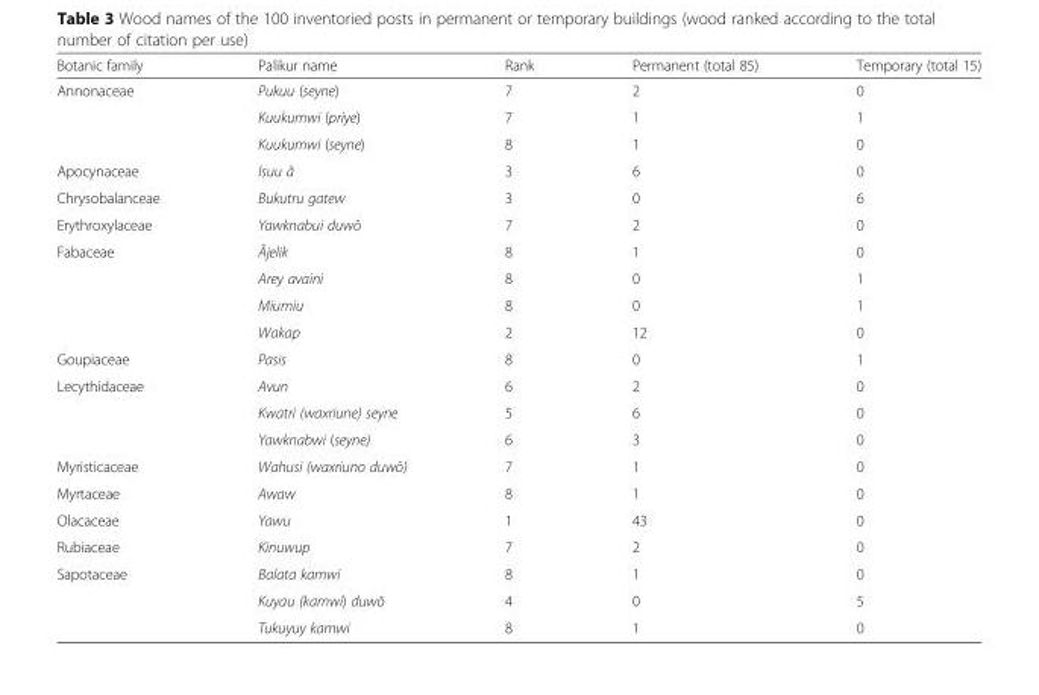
<table><thead><tr><td>Botanic family</td><td>Palikur name</td><td>Rank</td><td>Permanent (total 85)</td><td>Temporary (total 15)</td></tr></thead><tbody><tr><td rowspan="3">Annonaceae</td><td>Pukuu (seyne)</td><td>7</td><td>2</td><td>0</td></tr><tr><td>Kuukumwi (priye)</td><td>7</td><td>1</td><td>1</td></tr><tr><td>Kuukumwi (seyne)</td><td>8</td><td>1</td><td>0</td></tr><tr><td>Apocynaceae</td><td>Isuu ã</td><td>3</td><td>6</td><td>0</td></tr><tr><td>Chrysobalanceae</td><td>Bukutru gatew</td><td>3</td><td>0</td><td>6</td></tr><tr><td>Erythroxylaceae</td><td>Yawknabui duwõ</td><td>7</td><td>2</td><td>0</td></tr><tr><td rowspan="4">Fabaceae</td><td>Ãjelik</td><td>8</td><td>1</td><td>0</td></tr><tr><td>Arey avaini</td><td>8</td><td>0</td><td>1</td></tr><tr><td>Miumiu</td><td>8</td><td>0</td><td>1</td></tr><tr><td>Wakap</td><td>2</td><td>12</td><td>0</td></tr><tr><td>Goupiaceae</td><td>Pasis</td><td>8</td><td>0</td><td>1</td></tr><tr><td rowspan="3">Lecythidaceae</td><td>Avun</td><td>6</td><td>2</td><td>0</td></tr><tr><td>Kwatri (waxriune) seyne</td><td>5</td><td>6</td><td>0</td></tr><tr><td>Yawknabwi (seyne)</td><td>6</td><td>3</td><td>0</td></tr><tr><td>Myristicaceae</td><td>Wahusi (waxriuno duwõ)</td><td>7</td><td>1</td><td>0</td></tr><tr><td>Myrtaceae</td><td>Awaw</td><td>8</td><td>1</td><td>0</td></tr><tr><td>Olacaceae</td><td>Yawu</td><td>1</td><td>43</td><td>0</td></tr><tr><td>Rubiaceae</td><td>Kinuwup</td><td>7</td><td>2</td><td>0</td></tr><tr><td rowspan="3">Sapotaceae</td><td>Balata kamwi</td><td>8</td><td>1</td><td>0</td></tr><tr><td>Kuyau (kamwi) duwõ</td><td>4</td><td>0</td><td>5</td></tr><tr><td>Tukuyuy kamwi</td><td>8</td><td>1</td><td>0</td></tr></tbody></table>